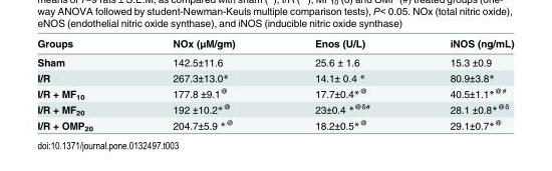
<table><thead><tr><td>Groups</td><td>NOx (μM/gm)</td><td>Enos (U/L)</td><td>iNOS (ng/mL)</td></tr></thead><tbody><tr><td>Sham</td><td>142.5±11.6</td><td>25.6 ± 1.6</td><td>15.3 ±0.9</td></tr><tr><td>I/R</td><td>267.3±13.0*</td><td>14.1± 0.4 *</td><td>80.9±3.8*</td></tr><tr><td>I/R + MF<sub>10</sub></td><td>177.8 ±9.1<sup>@</sup></td><td>17.7±0.4*<sup>@</sup></td><td>40.5±1.1*<sup>@#</sup></td></tr><tr><td>I/R + MF<sub>20</sub></td><td>192 ±10.2*<sup>@</sup></td><td>23±0.4 *<sup>@δ#</sup></td><td>28.1 ±0.8*<sup>@δ</sup></td></tr><tr><td>I/R + OMP<sub>20</sub></td><td>204.7±5.9 *<sup>@</sup></td><td>18.2±0.5*<sup>@</sup></td><td>29.1±0.7*<sup>@</sup></td></tr></tbody></table>